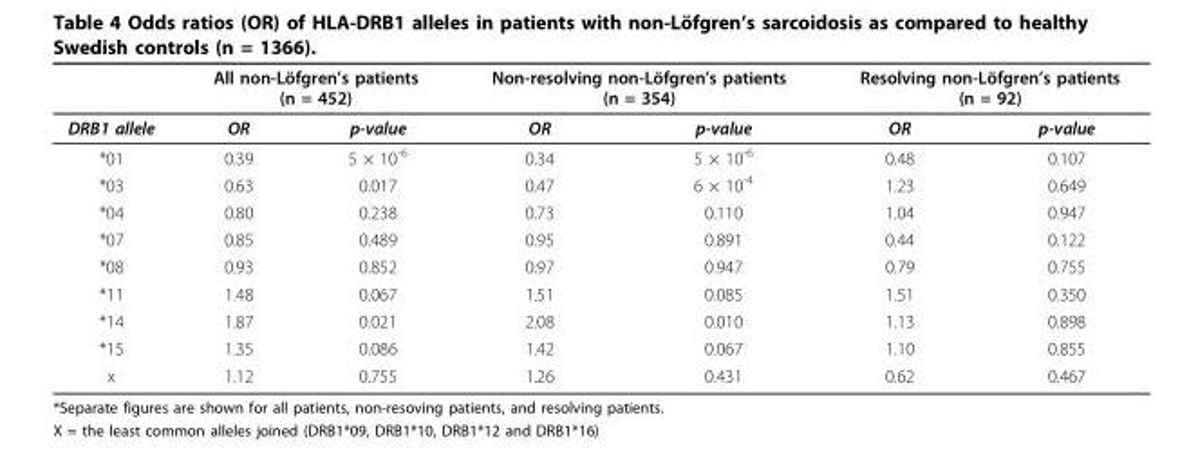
<table><thead><tr><td rowspan="2">DRB1 allele</td><td colspan="2">All non-Löfgren’s patients (n = 452)</td><td colspan="2">Non-resolving non-Löfgren’s patients (n = 354)</td><td colspan="2">Resolving non-Löfgren’s patients (n = 92)</td></tr><tr><td>OR</td><td>p-value</td><td>OR</td><td>p-value</td><td>OR</td><td>p-value</td></tr></thead><tbody><tr><td>*01</td><td>0.39</td><td>5 × 10<sup>-6</sup></td><td>0.34</td><td>5 × 10<sup>-6</sup></td><td>0.48</td><td>0.107</td></tr><tr><td>*03</td><td>0.63</td><td>0.017</td><td>0.47</td><td>6 × 10<sup>-4</sup></td><td>1.23</td><td>0.649</td></tr><tr><td>*04</td><td>0.80</td><td>0.238</td><td>0.73</td><td>0.110</td><td>1.04</td><td>0.947</td></tr><tr><td>*07</td><td>0.85</td><td>0.489</td><td>0.95</td><td>0.891</td><td>0.44</td><td>0.122</td></tr><tr><td>*08</td><td>0.93</td><td>0.852</td><td>0.97</td><td>0.947</td><td>0.79</td><td>0.755</td></tr><tr><td>*11</td><td>1.48</td><td>0.067</td><td>1.51</td><td>0.085</td><td>1.51</td><td>0.350</td></tr><tr><td>*14</td><td>1.87</td><td>0.021</td><td>2.08</td><td>0.010</td><td>1.13</td><td>0.898</td></tr><tr><td>*15</td><td>1.35</td><td>0.086</td><td>1.42</td><td>0.067</td><td>1.10</td><td>0.855</td></tr><tr><td>x</td><td>1.12</td><td>0.755</td><td>1.26</td><td>0.431</td><td>0.62</td><td>0.467</td></tr></tbody></table>